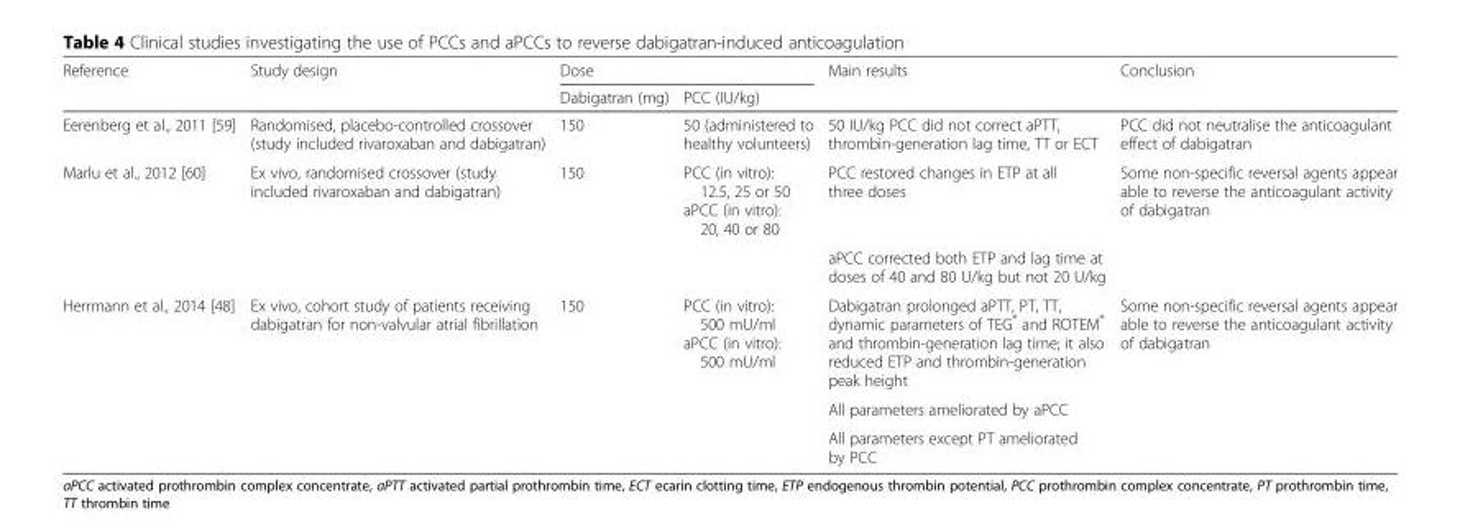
<table><thead><tr><td rowspan="2">Reference</td><td rowspan="2">Study design</td><td colspan="2">Dose</td><td rowspan="2">Main results</td><td rowspan="2">Conclusion</td></tr><tr><td>Dabigatran (mg)</td><td>PCC (IU/kg)</td></tr></thead><tbody><tr><td>Eerenberg et al., 2011 [59]</td><td>Randomised, placebo-controlled crossover (study included rivaroxaban and dabigatran)</td><td>150</td><td>50 (administered to healthy volunteers)</td><td>50 IU/kg PCC did not correct aPTT, thrombin-generation lag time, TT or ECT</td><td>PCC did not neutralise the anticoagulant effect of dabigatran</td></tr><tr><td rowspan="2">Marlu et al., 2012 [60]</td><td>Ex vivo, randomised crossover (study included rivaroxaban and dabigatran)</td><td>150</td><td>PCC (in vitro): 12.5, 25 or 50 aPCC (in vitro): 20, 40 or 80</td><td>PCC restored changes in ETP at all three doses</td><td>Some non-specific reversal agents appear able to reverse the anticoagulant activity of dabigatran</td></tr><tr><td></td><td></td><td></td><td>aPCC corrected both ETP and lag time at doses of 40 and 80 U/kg but not 20 U/kg</td><td></td></tr><tr><td rowspan="3">Herrmann et al., 2014 [48]</td><td>Ex vivo, cohort study of patients receiving dabigatran for non-valvular atrial fibrillation</td><td>150</td><td>PCC (in vitro): 500 mU/ml aPCC (in vitro): 500 mU/ml</td><td>Dabigatran prolonged aPTT, PT, TT, dynamic parameters of TEG<sup>®</sup> and ROTEM<sup>®</sup> and thrombin-generation lag time; it also reduced ETP and thrombin-generation peak height</td><td>Some non-specific reversal agents appear able to reverse the anticoagulant activity of dabigatran</td></tr><tr><td></td><td></td><td></td><td>All parameters ameliorated by aPCC</td><td></td></tr><tr><td></td><td></td><td></td><td>All parameters except PT ameliorated by PCC</td><td></td></tr></tbody></table>